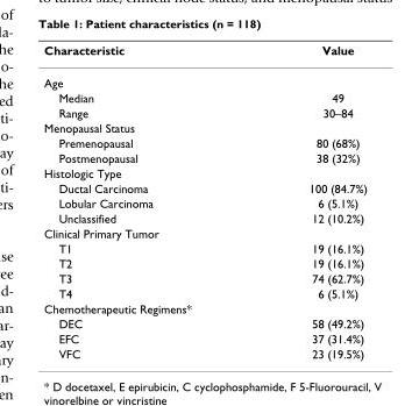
<table><thead><tr><td>Characteristic</td><td>Value</td></tr></thead><tbody><tr><td colspan="2">Age</td></tr><tr><td>Median</td><td>49</td></tr><tr><td>Range</td><td>30–84</td></tr><tr><td colspan="2">Menopausal Status</td></tr><tr><td>Premenopausal</td><td>80 (68%)</td></tr><tr><td>Postmenopausal</td><td>38 (32%)</td></tr><tr><td colspan="2">Histologic Type</td></tr><tr><td>Ductal Carcinoma</td><td>100 (84.7%)</td></tr><tr><td>Lobular Carcinoma</td><td>6 (5.1%)</td></tr><tr><td>Unclassified</td><td>12 (10.2%)</td></tr><tr><td colspan="2">Clinical Primary Tumor</td></tr><tr><td>T1</td><td>19 (16.1%)</td></tr><tr><td>T2</td><td>19 (16.1%)</td></tr><tr><td>T3</td><td>74 (62.7%)</td></tr><tr><td>T4</td><td>6 (5.1%)</td></tr><tr><td colspan="2">Chemotherapeutic Regimens*</td></tr><tr><td>DEC</td><td>58 (49.2%)</td></tr><tr><td>EFC</td><td>37 (31.4%)</td></tr><tr><td>VFC</td><td>23 (19.5%)</td></tr></tbody></table>